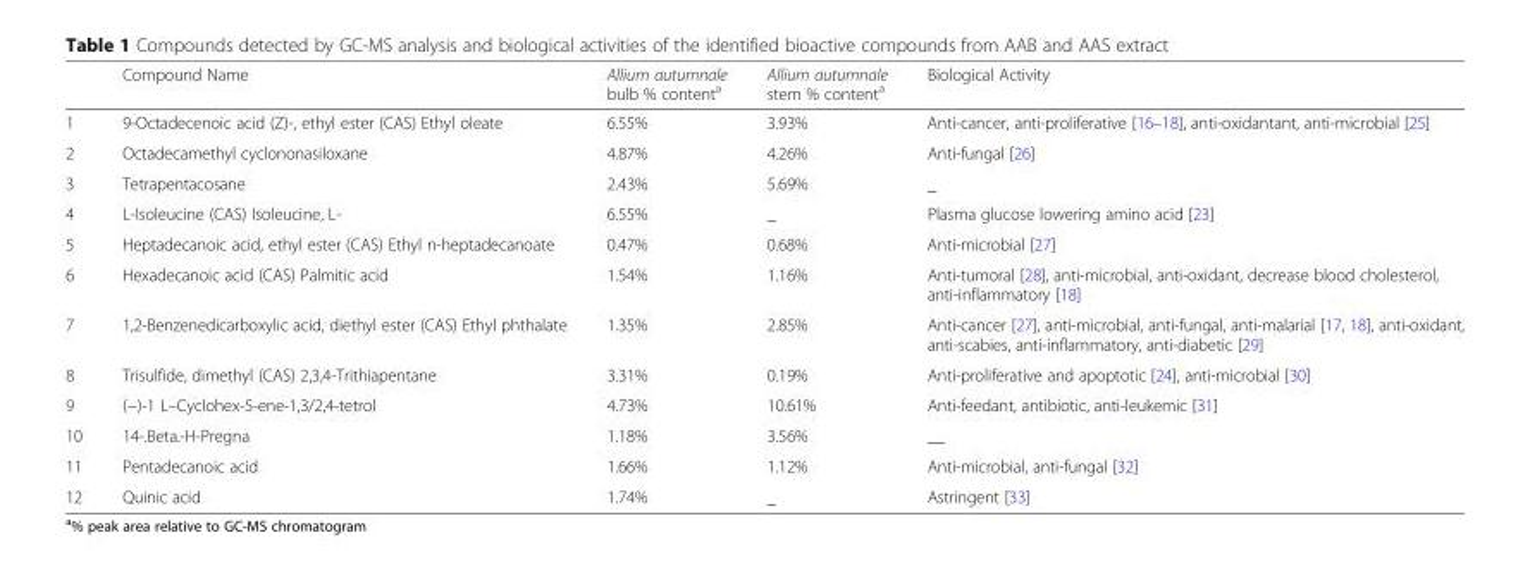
<table><thead><tr><td></td><td>Compound Name</td><td>Allium autumnale bulb % content<sup>a</sup></td><td>Allium autumnale stem % content<sup>a</sup></td><td>Biological Activity</td></tr></thead><tbody><tr><td>1</td><td>9-Octadecenoic acid (Z)-, ethyl ester (CAS) Ethyl oleate</td><td>6.55%</td><td>3.93%</td><td>Anti-cancer, anti-proliferative [16–18], anti-oxidantant, anti-microbial [25]</td></tr><tr><td>2</td><td>Octadecamethyl cyclononasiloxane</td><td>4.87%</td><td>4.26%</td><td>Anti-fungal [26]</td></tr><tr><td>3</td><td>Tetrapentacosane</td><td>2.43%</td><td>5.69%</td><td>_</td></tr><tr><td>4</td><td>L-Isoleucine (CAS) Isoleucine, L-</td><td>6.55%</td><td>_</td><td>Plasma glucose lowering amino acid [23]</td></tr><tr><td>5</td><td>Heptadecanoic acid, ethyl ester (CAS) Ethyl n-heptadecanoate</td><td>0.47%</td><td>0.68%</td><td>Anti-microbial [27]</td></tr><tr><td>6</td><td>Hexadecanoic acid (CAS) Palmitic acid</td><td>1.54%</td><td>1.16%</td><td>Anti-tumoral [28], anti-microbial, anti-oxidant, decrease blood cholesterol, anti-inflammatory [18]</td></tr><tr><td>7</td><td>1,2-Benzenedicarboxylic acid, diethyl ester (CAS) Ethyl phthalate</td><td>1.35%</td><td>2.85%</td><td>Anti-cancer [27], anti-microbial, anti-fungal, anti-malarial [17, 18], anti-oxidant, anti-scabies, anti-inflammatory, anti-diabetic [29]</td></tr><tr><td>8</td><td>Trisulfide, dimethyl (CAS) 2,3,4-Trithiapentane</td><td>3.31%</td><td>0.19%</td><td>Anti-proliferative and apoptotic [24], anti-microbial [30]</td></tr><tr><td>9</td><td>(−)-1 L–Cyclohex-5-ene-1,3/2,4-tetrol</td><td>4.73%</td><td>10.61%</td><td>Anti-feedant, antibiotic, anti-leukemic [31]</td></tr><tr><td>10</td><td>14-.Beta.-H-Pregna</td><td>1.18%</td><td>3.56%</td><td>__</td></tr><tr><td>11</td><td>Pentadecanoic acid</td><td>1.66%</td><td>1.12%</td><td>Anti-microbial, anti-fungal [32]</td></tr><tr><td>12</td><td>Quinic acid</td><td>1.74%</td><td>_</td><td>Astringent [33]</td></tr></tbody></table>